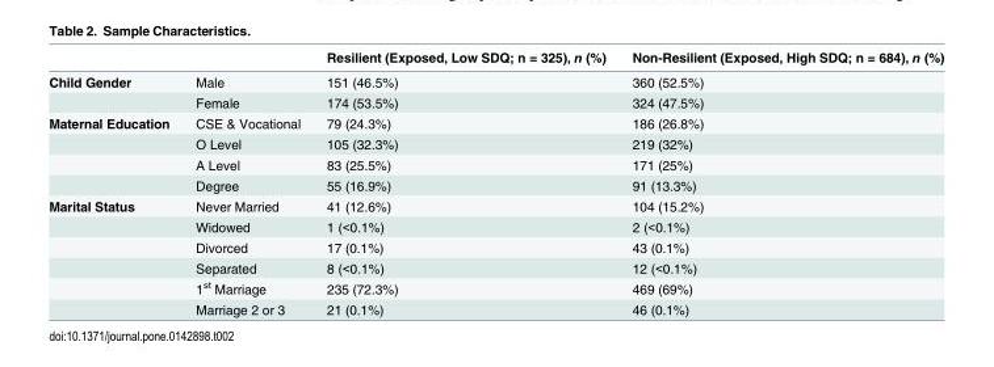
<table><thead><tr><td></td><td></td><td>Resilient (Exposed, Low SDQ; n = 325), n (%)</td><td>Non-Resilient (Exposed, High SDQ; n = 684), n (%)</td></tr></thead><tbody><tr><td rowspan="2">Child Gender</td><td>Male</td><td>151 (46.5%)</td><td>360 (52.5%)</td></tr><tr><td>Female</td><td>174 (53.5%)</td><td>324 (47.5%)</td></tr><tr><td rowspan="4">Maternal Education</td><td>CSE &amp; Vocational</td><td>79 (24.3%)</td><td>186 (26.8%)</td></tr><tr><td>O Level</td><td>105 (32.3%)</td><td>219 (32%)</td></tr><tr><td>A Level</td><td>83 (25.5%)</td><td>171 (25%)</td></tr><tr><td>Degree</td><td>55 (16.9%)</td><td>91 (13.3%)</td></tr><tr><td rowspan="6">Marital Status</td><td>Never Married</td><td>41 (12.6%)</td><td>104 (15.2%)</td></tr><tr><td>Widowed</td><td>1 (&lt;0.1%)</td><td>2 (&lt;0.1%)</td></tr><tr><td>Divorced</td><td>17 (0.1%)</td><td>43 (0.1%)</td></tr><tr><td>Separated</td><td>8 (&lt;0.1%)</td><td>12 (&lt;0.1%)</td></tr><tr><td>1<sup>st</sup> Marriage</td><td>235 (72.3%)</td><td>469 (69%)</td></tr><tr><td>Marriage 2 or 3</td><td>21 (0.1%)</td><td>46 (0.1%)</td></tr></tbody></table>